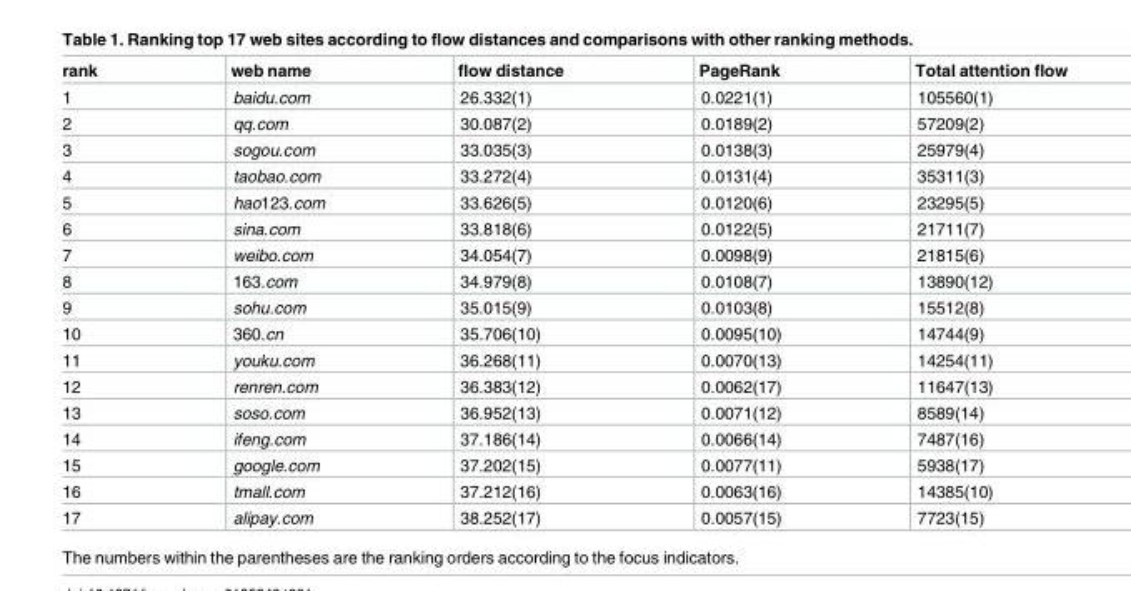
<table><thead><tr><td>rank</td><td>web name</td><td>flow distance</td><td>PageRank</td><td>Total attention flow</td></tr></thead><tbody><tr><td>1</td><td>baidu.com</td><td>26.332(1)</td><td>0.0221(1)</td><td>105560(1)</td></tr><tr><td>2</td><td>qq.com</td><td>30.087(2)</td><td>0.0189(2)</td><td>57209(2)</td></tr><tr><td>3</td><td>sogou.com</td><td>33.035(3)</td><td>0.0138(3)</td><td>25979(4)</td></tr><tr><td>4</td><td>taobao.com</td><td>33.272(4)</td><td>0.0131(4)</td><td>35311(3)</td></tr><tr><td>5</td><td>hao123.com</td><td>33.626(5)</td><td>0.0120(6)</td><td>23295(5)</td></tr><tr><td>6</td><td>sina.com</td><td>33.818(6)</td><td>0.0122(5)</td><td>21711(7)</td></tr><tr><td>7</td><td>weibo.com</td><td>34.054(7)</td><td>0.0098(9)</td><td>21815(6)</td></tr><tr><td>8</td><td>163.com</td><td>34.979(8)</td><td>0.0108(7)</td><td>13890(12)</td></tr><tr><td>9</td><td>sohu.com</td><td>35.015(9)</td><td>0.0103(8)</td><td>15512(8)</td></tr><tr><td>10</td><td>360.cn</td><td>35.706(10)</td><td>0.0095(10)</td><td>14744(9)</td></tr><tr><td>11</td><td>youku.com</td><td>36.268(11)</td><td>0.0070(13)</td><td>14254(11)</td></tr><tr><td>12</td><td>renren.com</td><td>36.383(12)</td><td>0.0062(17)</td><td>11647(13)</td></tr><tr><td>13</td><td>soso.com</td><td>36.952(13)</td><td>0.0071(12)</td><td>8589(14)</td></tr><tr><td>14</td><td>ifeng.com</td><td>37.186(14)</td><td>0.0066(14)</td><td>7487(16)</td></tr><tr><td>15</td><td>google.com</td><td>37.202(15)</td><td>0.0077(11)</td><td>5938(17)</td></tr><tr><td>16</td><td>tmall.com</td><td>37.212(16)</td><td>0.0063(16)</td><td>14385(10)</td></tr><tr><td>17</td><td>alipay.com</td><td>38.252(17)</td><td>0.0057(15)</td><td>7723(15)</td></tr></tbody></table>